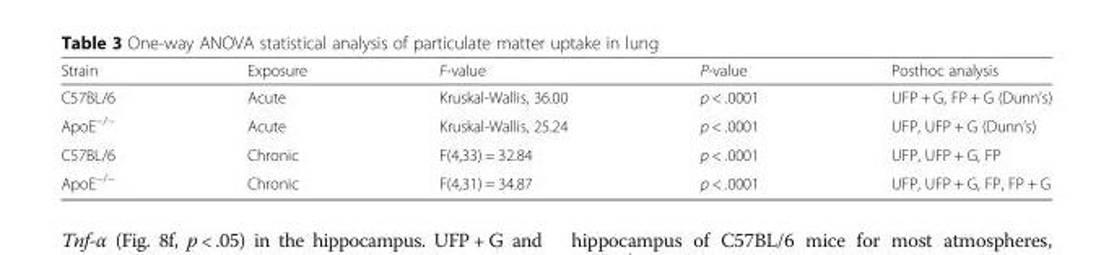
<table><thead><tr><td>Strain</td><td>Exposure</td><td>F-value</td><td>P-value</td><td>Posthoc analysis</td></tr></thead><tbody><tr><td>C57BL/6</td><td>Acute</td><td>Kruskal-Wallis, 36.00</td><td>p &lt; .0001</td><td>UFP + G, FP + G (Dunn’s)</td></tr><tr><td>ApoE<sup>−/−</sup></td><td>Acute</td><td>Kruskal-Wallis, 25.24</td><td>p &lt; .0001</td><td>UFP, UFP + G (Dunn’s)</td></tr><tr><td>C57BL/6</td><td>Chronic</td><td>F(4,33) = 32.84</td><td>p &lt; .0001</td><td>UFP, UFP + G, FP</td></tr><tr><td>ApoE<sup>−/−</sup></td><td>Chronic</td><td>F(4,31) = 34.87</td><td>p &lt; .0001</td><td>UFP, UFP + G, FP, FP + G</td></tr></tbody></table>